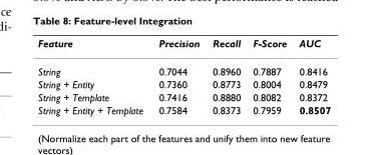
<table><thead><tr><td>Feature</td><td>Precision</td><td>Recall</td><td>F-Score</td><td>AUC</td></tr></thead><tbody><tr><td>String</td><td>0.7044</td><td>0.8960</td><td>0.7887</td><td>0.8416</td></tr><tr><td>String + Entity</td><td>0.7360</td><td>0.8773</td><td>0.8004</td><td>0.8479</td></tr><tr><td>String + Template</td><td>0.7416</td><td>0.8880</td><td>0.8082</td><td>0.8372</td></tr><tr><td>String + Entity + Template</td><td>0.7584</td><td>0.8373</td><td>0.7959</td><td>0.8507</td></tr></tbody></table>